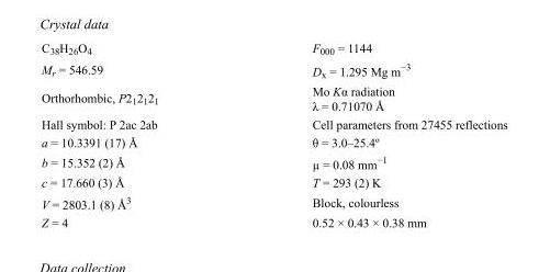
<table><tbody><tr><td>C<sub>38</sub>H<sub>26</sub>O<sub>4</sub></td><td>F<sub>000</sub> = 1144</td></tr><tr><td>M<sub>r</sub> = 546.59</td><td>D<sub>x</sub> = 1.295 Mg m<sup>−3</sup></td></tr><tr><td>Orthorhombic, P2<sub>1</sub>2<sub>1</sub>2<sub>1</sub></td><td>Mo Kα radiation λ = 0.71070 Å</td></tr><tr><td>Hall symbol: P 2ac 2ab</td><td>Cell parameters from 27455 reflections</td></tr><tr><td>a = 10.3391 (17) Å</td><td>θ = 3.0–25.4º</td></tr><tr><td>b = 15.352 (2) Å</td><td>µ = 0.08 mm<sup>−1</sup></td></tr><tr><td>c = 17.660 (3) Å</td><td>T = 293 (2) K</td></tr><tr><td>V = 2803.1 (8) Å<sup>3</sup></td><td>Block, colourless</td></tr><tr><td>Z = 4</td><td>0.52 × 0.43 × 0.38 mm</td></tr></tbody></table>